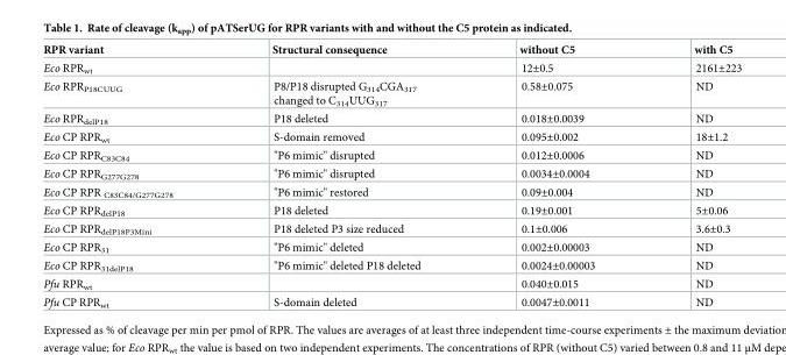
<table><thead><tr><td>RPR variant</td><td>Structural consequence</td><td>without C5</td><td>with C5</td></tr></thead><tbody><tr><td>Eco RPR<sub>wt</sub></td><td></td><td>12±0.5</td><td>2161±223</td></tr><tr><td>Eco RPR<sub>P18CUUG</sub></td><td>P8/P18 disrupted G<sub>314</sub>CGA<sub>317</sub> changed to C<sub>314</sub>UUG<sub>317</sub></td><td>0.58±0.075</td><td>ND</td></tr><tr><td>Eco RPR<sub>delP18</sub></td><td>P18 deleted</td><td>0.018±0.0039</td><td>ND</td></tr><tr><td>Eco CP RPR<sub>wt</sub></td><td>S-domain removed</td><td>0.095±0.002</td><td>18±1.2</td></tr><tr><td>Eco CP RPR<sub>C83C84</sub></td><td>&quot;P6 mimic&quot; disrupted</td><td>0.012±0.0006</td><td>ND</td></tr><tr><td>Eco CP RPR<sub>G277G278</sub></td><td>&quot;P6 mimic&quot; disrupted</td><td>0.0034±0.0004</td><td>ND</td></tr><tr><td>Eco CP RPR <sub>C83C84/G277G278</sub></td><td>&quot;P6 mimic&quot; restored</td><td>0.09±0.004</td><td>ND</td></tr><tr><td>Eco CP RPR<sub>delP18</sub></td><td>P18 deleted</td><td>0.19±0.001</td><td>5±0.06</td></tr><tr><td>Eco CP RPR<sub>delP18P3Mini</sub></td><td>P18 deleted P3 size reduced</td><td>0.1±0.006</td><td>3.6±0.3</td></tr><tr><td>Eco CP RPR<sub>31</sub></td><td>&quot;P6 mimic&quot; deleted</td><td>0.002±0.00003</td><td>ND</td></tr><tr><td>Eco CP RPR<sub>31delP18</sub></td><td>&quot;P6 mimic&quot; deleted P18 deleted</td><td>0.0024±0.00003</td><td>ND</td></tr><tr><td>Pfu RPR<sub>wt</sub></td><td></td><td>0.040±0.015</td><td>ND</td></tr><tr><td>Pfu CP RPR<sub>wt</sub></td><td>S-domain deleted</td><td>0.0047±0.0011</td><td>ND</td></tr></tbody></table>